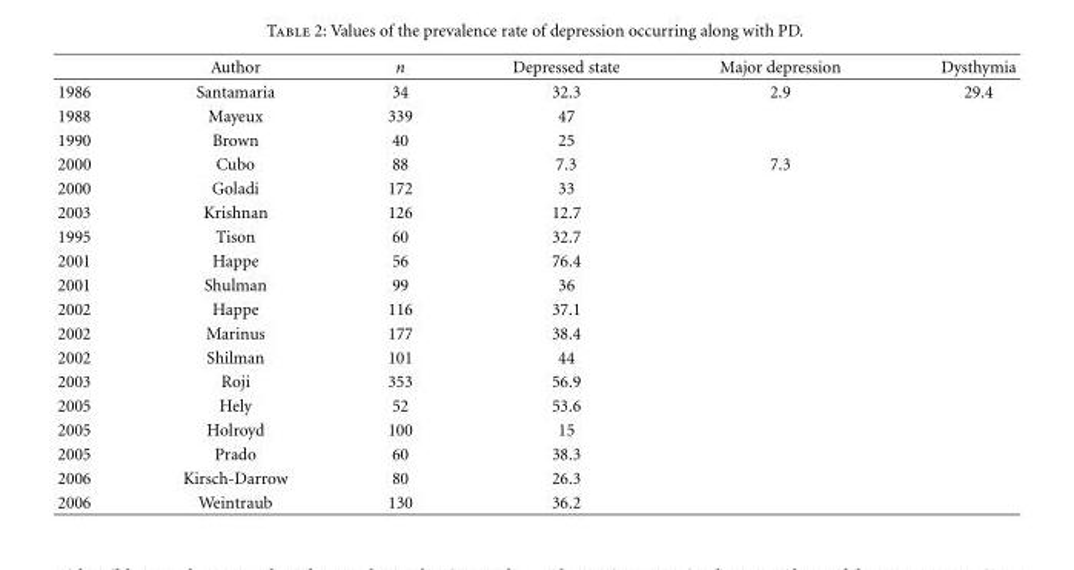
<table><thead><tr><td></td><td>Author</td><td>n</td><td>Depressed state</td><td>Major depression</td><td>Dysthymia</td></tr></thead><tbody><tr><td>1986</td><td>Santamaria</td><td>34</td><td>32.3</td><td>2.9</td><td>29.4</td></tr><tr><td>1988</td><td>Mayeux</td><td>339</td><td>47</td><td></td><td></td></tr><tr><td>1990</td><td>Brown</td><td>40</td><td>25</td><td></td><td></td></tr><tr><td>2000</td><td>Cubo</td><td>88</td><td>7.3</td><td>7.3</td><td></td></tr><tr><td>2000</td><td>Goladi</td><td>172</td><td>33</td><td></td><td></td></tr><tr><td>2003</td><td>Krishnan</td><td>126</td><td>12.7</td><td></td><td></td></tr><tr><td>1995</td><td>Tison</td><td>60</td><td>32.7</td><td></td><td></td></tr><tr><td>2001</td><td>Happe</td><td>56</td><td>76.4</td><td></td><td></td></tr><tr><td>2001</td><td>Shulman</td><td>99</td><td>36</td><td></td><td></td></tr><tr><td>2002</td><td>Happe</td><td>116</td><td>37.1</td><td></td><td></td></tr><tr><td>2002</td><td>Marinus</td><td>177</td><td>38.4</td><td></td><td></td></tr><tr><td>2002</td><td>Shilman</td><td>101</td><td>44</td><td></td><td></td></tr><tr><td>2003</td><td>Roji</td><td>353</td><td>56.9</td><td></td><td></td></tr><tr><td>2005</td><td>Hely</td><td>52</td><td>53.6</td><td></td><td></td></tr><tr><td>2005</td><td>Holroyd</td><td>100</td><td>15</td><td></td><td></td></tr><tr><td>2005</td><td>Prado</td><td>60</td><td>38.3</td><td></td><td></td></tr><tr><td>2006</td><td>Kirsch-Darrow</td><td>80</td><td>26.3</td><td></td><td></td></tr><tr><td>2006</td><td>Weintraub</td><td>130</td><td>36.2</td><td></td><td></td></tr></tbody></table>